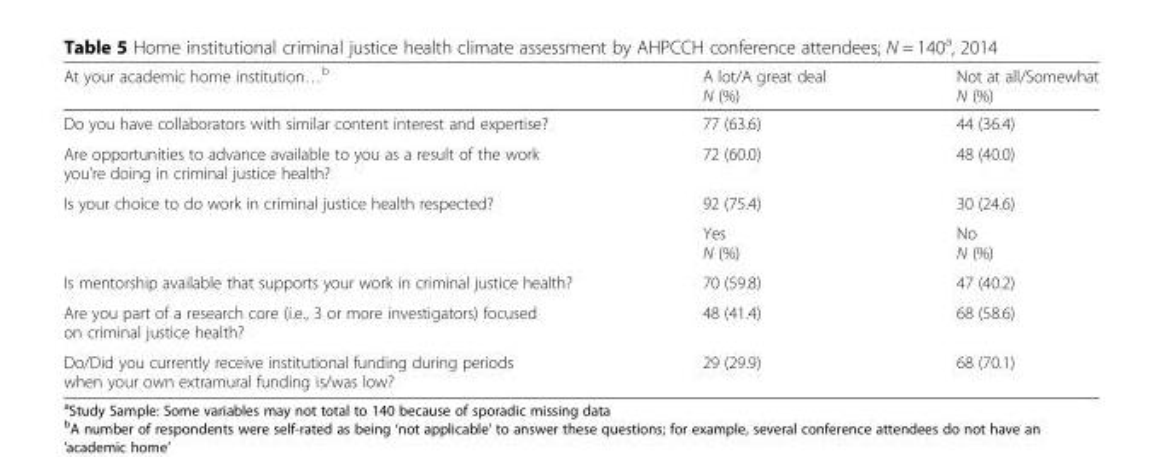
<table><thead><tr><td>At your academic home institution…<sup>b</sup></td><td>A lot/A great deal N (%)</td><td>Not at all/Somewhat N (%)</td></tr></thead><tbody><tr><td>Do you have collaborators with similar content interest and expertise?</td><td>77 (63.6)</td><td>44 (36.4)</td></tr><tr><td>Are opportunities to advance available to you as a result of the work you’re doing in criminal justice health?</td><td>72 (60.0)</td><td>48 (40.0)</td></tr><tr><td rowspan="2">Is your choice to do work in criminal justice health respected?</td><td>92 (75.4)</td><td>30 (24.6)</td></tr><tr><td>Yes N (%)</td><td>No N (%)</td></tr><tr><td>Is mentorship available that supports your work in criminal justice health?</td><td>70 (59.8)</td><td>47 (40.2)</td></tr><tr><td>Are you part of a research core (i.e., 3 or more investigators) focused on criminal justice health?</td><td>48 (41.4)</td><td>68 (58.6)</td></tr><tr><td>Do/Did you currently receive institutional funding during periods when your own extramural funding is/was low?</td><td>29 (29.9)</td><td>68 (70.1)</td></tr></tbody></table>